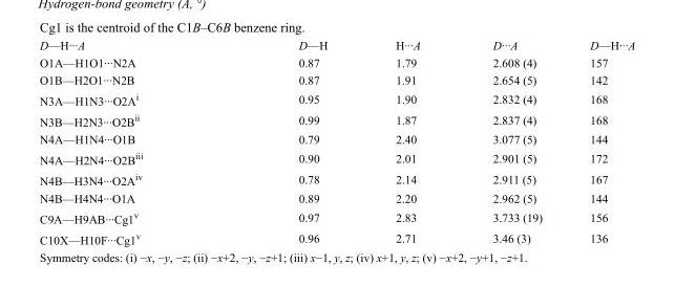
<table><tbody><tr><td>D—H···A</td><td>D—H</td><td>H···A</td><td>D···A</td><td>D—H···A</td></tr><tr><td>O1A—H1O1···N2A</td><td>0.87</td><td>1.79</td><td>2.608 (4)</td><td>157</td></tr><tr><td>O1B—H2O1···N2B</td><td>0.87</td><td>1.91</td><td>2.654 (5)</td><td>142</td></tr><tr><td>N3A—H1N3···O2A<sup>i</sup></td><td>0.95</td><td>1.90</td><td>2.832 (4)</td><td>168</td></tr><tr><td>N3B—H2N3···O2B<sup>ii</sup></td><td>0.99</td><td>1.87</td><td>2.837 (4)</td><td>168</td></tr><tr><td>N4A—H1N4···O1B</td><td>0.79</td><td>2.40</td><td>3.077 (5)</td><td>144</td></tr><tr><td>N4A—H2N4···O2B<sup>iii</sup></td><td>0.90</td><td>2.01</td><td>2.901 (5)</td><td>172</td></tr><tr><td>N4B—H3N4···O2A<sup>iv</sup></td><td>0.78</td><td>2.14</td><td>2.911 (5)</td><td>167</td></tr><tr><td>N4B—H4N4···O1A</td><td>0.89</td><td>2.20</td><td>2.962 (5)</td><td>144</td></tr><tr><td>C9A—H9AB···Cg1<sup>v</sup></td><td>0.97</td><td>2.83</td><td>3.733 (19)</td><td>156</td></tr><tr><td>C10X—H10F···Cg1<sup>v</sup></td><td>0.96</td><td>2.71</td><td>3.46 (3)</td><td>136</td></tr></tbody></table>